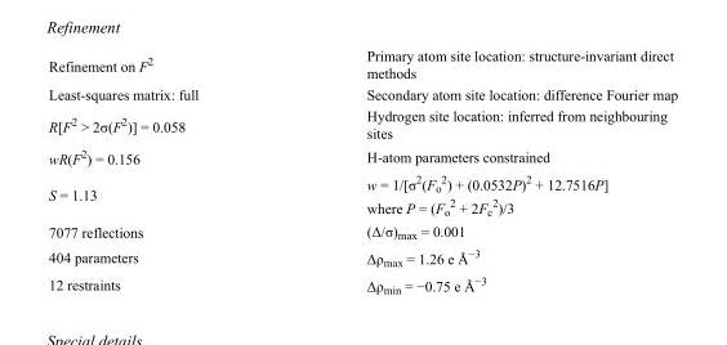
<table><tbody><tr><td>Refinement on F<sup>2</sup></td><td>Primary atom site location: structure-invariant direct methods</td></tr><tr><td>Least-squares matrix: full</td><td>Secondary atom site location: difference Fourier map</td></tr><tr><td>R[F<sup>2</sup> &gt; 2σ(F<sup>2</sup>)] = 0.058</td><td>Hydrogen site location: inferred from neighbouring sites</td></tr><tr><td>wR(F<sup>2</sup>) = 0.156</td><td>H-atom parameters constrained</td></tr><tr><td>S = 1.13</td><td>w = 1/[σ<sup>2</sup>(F<sub>o</sub> <sup>2</sup>) + (0.0532P)<sup>2</sup> + 12.7516P] where P = (F<sub>o</sub> <sup>2</sup> + 2F<sub>c</sub> <sup>2</sup>)/3</td></tr><tr><td>7077 reflections</td><td>(Δ/σ)<sub>max</sub> = 0.001</td></tr><tr><td>404 parameters</td><td>Δρ<sub>max</sub> = 1.26 e Å<sup>−3</sup></td></tr><tr><td>12 restraints</td><td>Δρ<sub>min</sub> = −0.75 e Å<sup>−3</sup></td></tr></tbody></table>